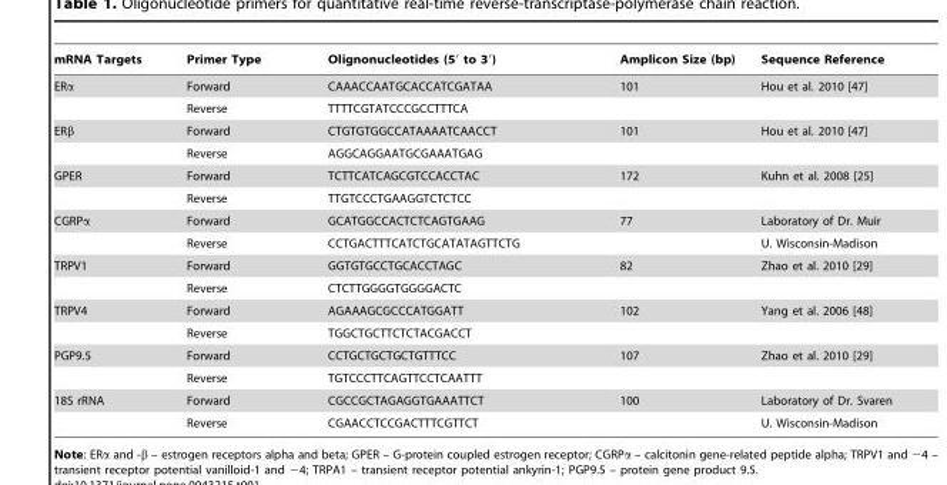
<table><thead><tr><td>mRNA Targets</td><td>Primer Type</td><td>Olignonucleotides (5′ to 3′)</td><td>Amplicon Size (bp)</td><td>Sequence Reference</td></tr></thead><tbody><tr><td rowspan="2">ERα</td><td>Forward</td><td>CAAACCAATGCACCATCGATAA</td><td>101</td><td>Hou et al. 2010 [47]</td></tr><tr><td>Reverse</td><td>TTTTCGTATCCCGCCTTTCA</td><td></td><td></td></tr><tr><td rowspan="2">ERβ</td><td>Forward</td><td>CTGTGTGGCCATAAAATCAACCT</td><td>101</td><td>Hou et al. 2010 [47]</td></tr><tr><td>Reverse</td><td>AGGCAGGAATGCGAAATGAG</td><td></td><td></td></tr><tr><td rowspan="2">GPER</td><td>Forward</td><td>TCTTCATCAGCGTCCACCTAC</td><td>172</td><td>Kuhn et al. 2008 [25]</td></tr><tr><td>Reverse</td><td>TTGTCCCTGAAGGTCTCTCC</td><td></td><td></td></tr><tr><td rowspan="2">CGRPα</td><td>Forward</td><td>GCATGGCCACTCTCAGTGAAG</td><td>77</td><td>Laboratory of Dr. Muir</td></tr><tr><td>Reverse</td><td>CCTGACTTTCATCTGCATATAGTTCTG</td><td></td><td>U. Wisconsin-Madison</td></tr><tr><td rowspan="2">TRPV1</td><td>Forward</td><td>GGTGTGCCTGCACCTAGC</td><td>82</td><td>Zhao et al. 2010 [29]</td></tr><tr><td>Reverse</td><td>CTCTTGGGGTGGGGACTC</td><td></td><td></td></tr><tr><td rowspan="2">TRPV4</td><td>Forward</td><td>AGAAAGCGCCCATGGATT</td><td>102</td><td>Yang et al. 2006 [48]</td></tr><tr><td>Reverse</td><td>TGGCTGCTTCTCTACGACCT</td><td></td><td></td></tr><tr><td rowspan="2">PGP9.5</td><td>Forward</td><td>CCTGCTGCTGCTGTTTCC</td><td>107</td><td>Zhao et al. 2010 [29]</td></tr><tr><td>Reverse</td><td>TGTCCCTTCAGTTCCTCAATTT</td><td></td><td></td></tr><tr><td rowspan="2">18S rRNA</td><td>Forward</td><td>CGCCGCTAGAGGTGAAATTCT</td><td>100</td><td>Laboratory of Dr. Svaren</td></tr><tr><td>Reverse</td><td>CGAACCTCCGACTTTCGTTCT</td><td></td><td>U. Wisconsin-Madison</td></tr></tbody></table>